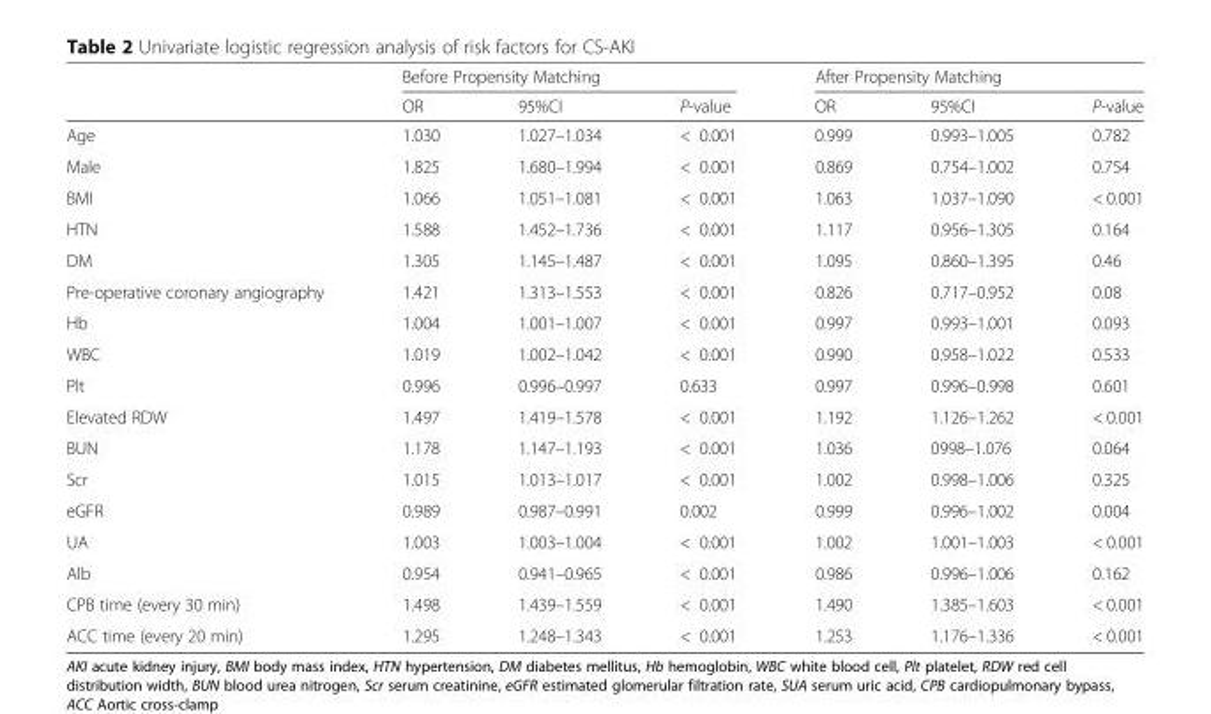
<table><thead><tr><td rowspan="2"></td><td colspan="3">Before Propensity Matching</td><td colspan="3">After Propensity Matching</td></tr><tr><td>OR</td><td>95%CI</td><td>P-value</td><td>OR</td><td>95%CI</td><td>P-value</td></tr></thead><tbody><tr><td>Age</td><td>1.030</td><td>1.027–1.034</td><td>&lt; 0.001</td><td>0.999</td><td>0.993–1.005</td><td>0.782</td></tr><tr><td>Male</td><td>1.825</td><td>1.680–1.994</td><td>&lt; 0.001</td><td>0.869</td><td>0.754–1.002</td><td>0.754</td></tr><tr><td>BMI</td><td>1.066</td><td>1.051–1.081</td><td>&lt; 0.001</td><td>1.063</td><td>1.037–1.090</td><td>&lt; 0.001</td></tr><tr><td>HTN</td><td>1.588</td><td>1.452–1.736</td><td>&lt; 0.001</td><td>1.117</td><td>0.956–1.305</td><td>0.164</td></tr><tr><td>DM</td><td>1.305</td><td>1.145–1.487</td><td>&lt; 0.001</td><td>1.095</td><td>0.860–1.395</td><td>0.46</td></tr><tr><td>Pre-operative coronary angiography</td><td>1.421</td><td>1.313–1.553</td><td>&lt; 0.001</td><td>0.826</td><td>0.717–0.952</td><td>0.08</td></tr><tr><td>Hb</td><td>1.004</td><td>1.001–1.007</td><td>&lt; 0.001</td><td>0.997</td><td>0.993–1.001</td><td>0.093</td></tr><tr><td>WBC</td><td>1.019</td><td>1.002–1.042</td><td>&lt; 0.001</td><td>0.990</td><td>0.958–1.022</td><td>0.533</td></tr><tr><td>Plt</td><td>0.996</td><td>0.996–0.997</td><td>0.633</td><td>0.997</td><td>0.996–0.998</td><td>0.601</td></tr><tr><td>Elevated RDW</td><td>1.497</td><td>1.419–1.578</td><td>&lt; 0.001</td><td>1.192</td><td>1.126–1.262</td><td>&lt; 0.001</td></tr><tr><td>BUN</td><td>1.178</td><td>1.147–1.193</td><td>&lt; 0.001</td><td>1.036</td><td>0998–1.076</td><td>0.064</td></tr><tr><td>Scr</td><td>1.015</td><td>1.013–1.017</td><td>&lt; 0.001</td><td>1.002</td><td>0.998–1.006</td><td>0.325</td></tr><tr><td>eGFR</td><td>0.989</td><td>0.987–0.991</td><td>0.002</td><td>0.999</td><td>0.996–1.002</td><td>0.004</td></tr><tr><td>UA</td><td>1.003</td><td>1.003–1.004</td><td>&lt; 0.001</td><td>1.002</td><td>1.001–1.003</td><td>&lt; 0.001</td></tr><tr><td>Alb</td><td>0.954</td><td>0.941–0.965</td><td>&lt; 0.001</td><td>0.986</td><td>0.996–1.006</td><td>0.162</td></tr><tr><td>CPB time (every 30 min)</td><td>1.498</td><td>1.439–1.559</td><td>&lt; 0.001</td><td>1.490</td><td>1.385–1.603</td><td>&lt; 0.001</td></tr><tr><td>ACC time (every 20 min)</td><td>1.295</td><td>1.248–1.343</td><td>&lt; 0.001</td><td>1.253</td><td>1.176–1.336</td><td>&lt; 0.001</td></tr></tbody></table>